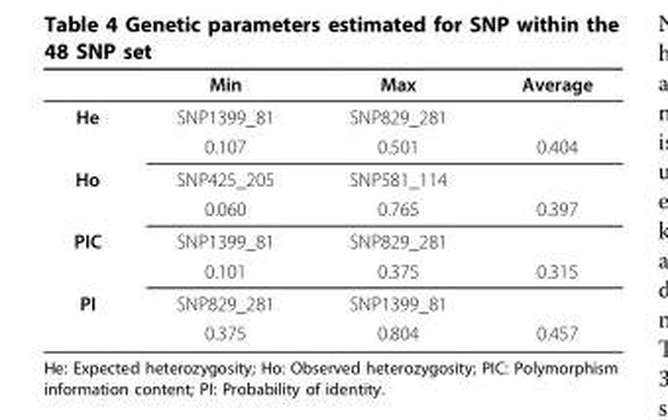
<table><thead><tr><td></td><td>Min</td><td>Max</td><td>Average</td></tr></thead><tbody><tr><td rowspan="2">He</td><td>SNP1399_81</td><td>SNP829_281</td><td></td></tr><tr><td>0.107</td><td>0.501</td><td>0.404</td></tr><tr><td rowspan="2">Ho</td><td>SNP425_205</td><td>SNP581_114</td><td></td></tr><tr><td>0.060</td><td>0.765</td><td>0.397</td></tr><tr><td rowspan="2">PIC</td><td>SNP1399_81</td><td>SNP829_281</td><td></td></tr><tr><td>0.101</td><td>0.375</td><td>0.315</td></tr><tr><td rowspan="2">PI</td><td>SNP829_281</td><td>SNP1399_81</td><td></td></tr><tr><td>0.375</td><td>0.804</td><td>0.457</td></tr></tbody></table>